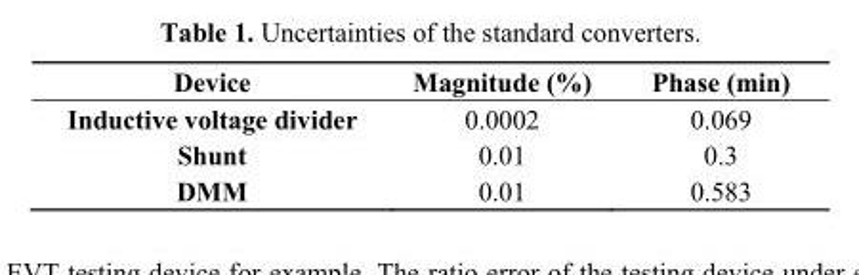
<table><thead><tr><td>Device</td><td>Magnitude (%)</td><td>Phase (min)</td></tr></thead><tbody><tr><td>Inductive voltage divider</td><td>0.0002</td><td>0.069</td></tr><tr><td>Shunt</td><td>0.01</td><td>0.3</td></tr><tr><td>DMM</td><td>0.01</td><td>0.583</td></tr></tbody></table>